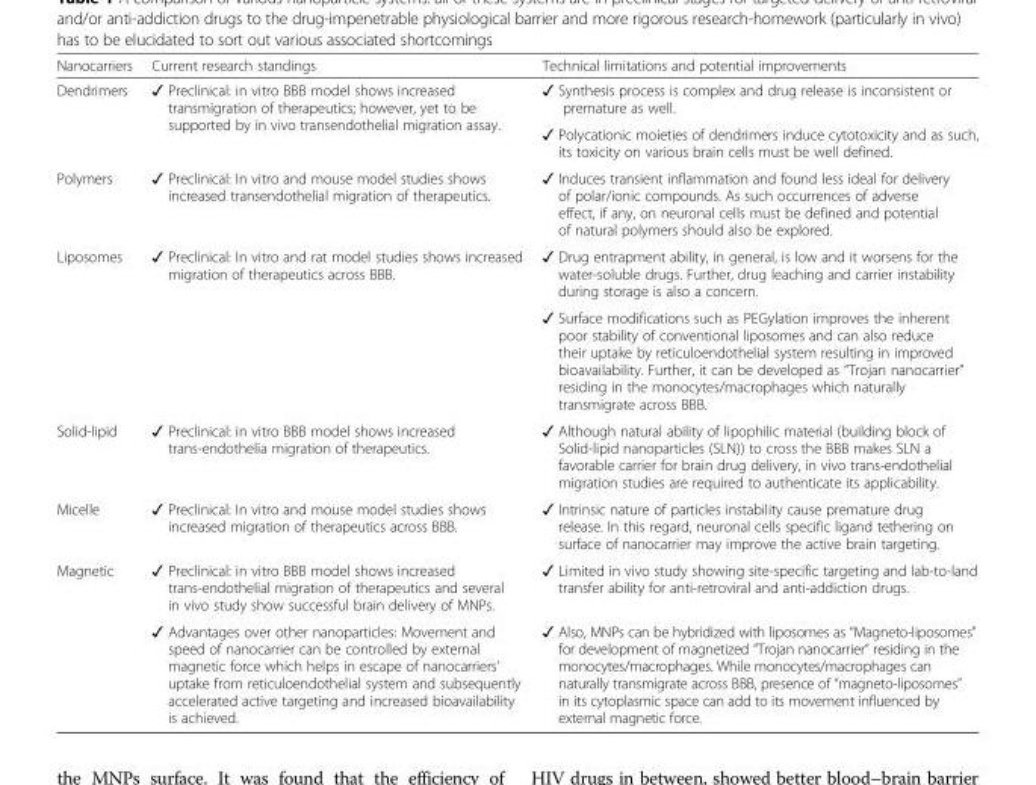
<table><thead><tr><td>Nanocarriers</td><td>Current research standings</td><td>Technical limitations and potential improvements</td></tr></thead><tbody><tr><td rowspan="2">Dendrimers</td><td rowspan="2">✓ Preclinical: in vitro BBB model shows increased transmigration of therapeutics; however, yet to be supported by in vivo transendothelial migration assay.</td><td>✓ Synthesis process is complex and drug release is inconsistent or premature as well.</td></tr><tr><td>✓ Polycationic moieties of dendrimers induce cytotoxicity and as such, its toxicity on various brain cells must be well defined.</td></tr><tr><td>Polymers</td><td>✓ Preclinical: In vitro and mouse model studies shows increased transendothelial migration of therapeutics.</td><td>✓ Induces transient inflammation and found less ideal for delivery of polar/ionic compounds. As such occurrences of adverse effect, if any, on neuronal cells must be defined and potential of natural polymers should also be explored.</td></tr><tr><td rowspan="2">Liposomes</td><td rowspan="2">✓ Preclinical: In vitro and rat model studies shows increased migration of therapeutics across BBB.</td><td>✓ Drug entrapment ability, in general, is low and it worsens for the water-soluble drugs. Further, drug leaching and carrier instability during storage is also a concern.</td></tr><tr><td>✓ Surface modifications such as PEGylation improves the inherent poor stability of conventional liposomes and can also reduce their uptake by reticuloendothelial system resulting in improved bioavailability. Further, it can be developed as “Trojan nanocarrier” residing in the monocytes/macrophages which naturally transmigrate across BBB.</td></tr><tr><td>Solid-lipid</td><td>✓ Preclinical: in vitro BBB model shows increased trans-endothelia migration of therapeutics.</td><td>✓ Although natural ability of lipophilic material (building block of Solid-lipid nanoparticles (SLN)) to cross the BBB makes SLN a favorable carrier for brain drug delivery, in vivo trans-endothelial migration studies are required to authenticate its applicability.</td></tr><tr><td>Micelle</td><td>✓ Preclinical: In vitro and mouse model studies shows increased migration of therapeutics across BBB.</td><td>✓ Intrinsic nature of particles instability cause premature drug release. In this regard, neuronal cells specific ligand tethering on surface of nanocarrier may improve the active brain targeting.</td></tr><tr><td rowspan="2">Magnetic</td><td>✓ Preclinical: in vitro BBB model shows increased trans-endothelial migration of therapeutics and several in vivo study show successful brain delivery of MNPs.</td><td>✓ Limited in vivo study showing site-specific targeting and lab-to-land transfer ability for anti-retroviral and anti-addiction drugs.</td></tr><tr><td>✓ Advantages over other nanoparticles: Movement and speed of nanocarrier can be controlled by external magnetic force which helps in escape of nanocarriers’ uptake from reticuloendothelial system and subsequently accelerated active targeting and increased bioavailability is achieved.</td><td>✓ Also, MNPs can be hybridized with liposomes as “Magneto-liposomes” for development of magnetized “Trojan nanocarrier” residing in the monocytes/macrophages. While monocytes/macrophages can naturally transmigrate across BBB, presence of “magneto-liposomes” in its cytoplasmic space can add to its movement influenced by external magnetic force.</td></tr></tbody></table>